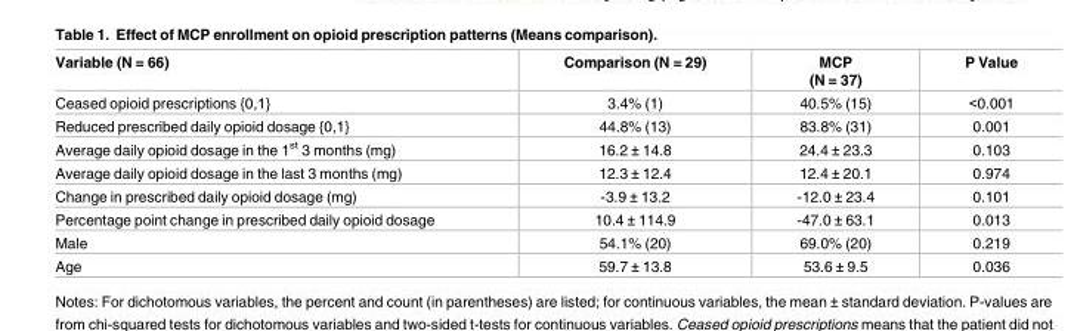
<table><thead><tr><td>Variable (N = 66)</td><td>Comparison (N = 29)</td><td>MCP (N = 37)</td><td>P Value</td></tr></thead><tbody><tr><td>Ceased opioid prescriptions {0,1}</td><td>3.4% (1)</td><td>40.5% (15)</td><td>&lt;0.001</td></tr><tr><td>Reduced prescribed daily opioid dosage {0,1}</td><td>44.8% (13)</td><td>83.8% (31)</td><td>0.001</td></tr><tr><td>Average daily opioid dosage in the 1<sup>st</sup> 3 months (mg)</td><td>16.2 ± 14.8</td><td>24.4 ± 23.3</td><td>0.103</td></tr><tr><td>Average daily opioid dosage in the last 3 months (mg)</td><td>12.3 ± 12.4</td><td>12.4 ± 20.1</td><td>0.974</td></tr><tr><td>Change in prescribed daily opioid dosage (mg)</td><td>-3.9 ± 13.2</td><td>-12.0 ± 23.4</td><td>0.101</td></tr><tr><td>Percentage point change in prescribed daily opioid dosage</td><td>10.4 ± 114.9</td><td>-47.0 ± 63.1</td><td>0.013</td></tr><tr><td>Male</td><td>54.1% (20)</td><td>69.0% (20)</td><td>0.219</td></tr><tr><td>Age</td><td>59.7 ± 13.8</td><td>53.6 ± 9.5</td><td>0.036</td></tr></tbody></table>